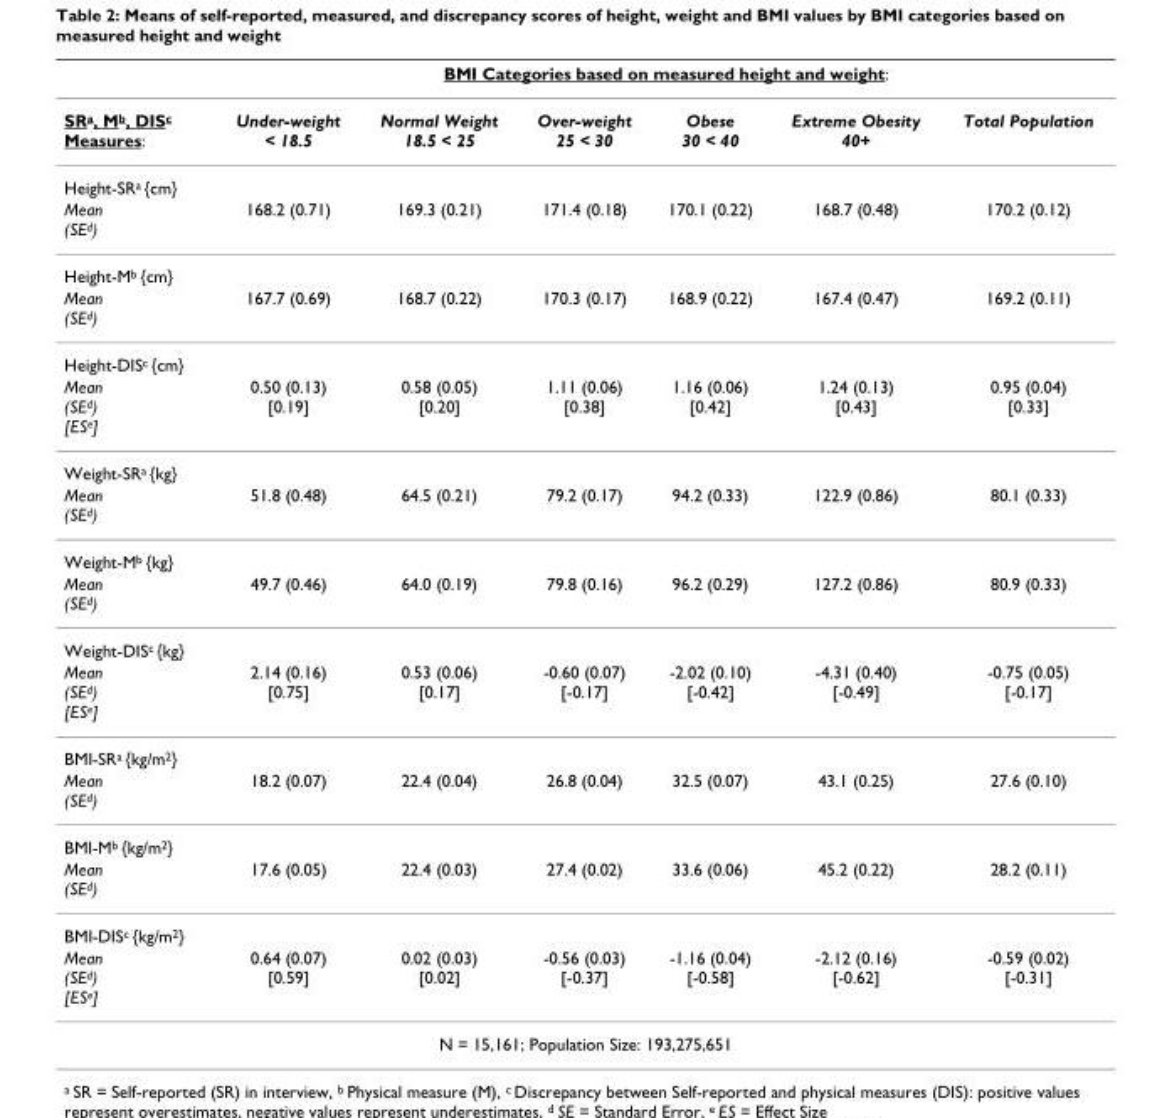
<table><thead><tr><td rowspan="2">SR<sup>a</sup>, M<sup>b</sup>, DIS<sup>c</sup> Measures:</td><td colspan="6">BMI Categories based on measured height and weight:</td></tr><tr><td>Under-weight &lt; 18.5</td><td>Normal Weight 18.5 &lt; 25</td><td>Over-weight 25 &lt; 30</td><td>Obese 30 &lt; 40</td><td>Extreme Obesity 40+</td><td>Total Population</td></tr></thead><tbody><tr><td colspan="7">Height-SR<sup>a</sup> {cm}</td></tr><tr><td>Mean (SE<sup>d</sup>)</td><td>168.2 (0.71)</td><td>169.3 (0.21)</td><td>171.4 (0.18)</td><td>170.1 (0.22)</td><td>168.7 (0.48)</td><td>170.2 (0.12)</td></tr><tr><td colspan="7">Height-M<sup>b</sup> {cm}</td></tr><tr><td>Mean (SE<sup>d</sup>)</td><td>167.7 (0.69)</td><td>168.7 (0.22)</td><td>170.3 (0.17)</td><td>168.9 (0.22)</td><td>167.4 (0.47)</td><td>169.2 (0.11)</td></tr><tr><td colspan="7">Height-DIS<sup>c</sup> {cm}</td></tr><tr><td>Mean (SE<sup>d</sup>) [ES<sup>e</sup>]</td><td>0.50 (0.13) [0.19]</td><td>0.58 (0.05) [0.20]</td><td>1.11 (0.06) [0.38]</td><td>1.16 (0.06) [0.42]</td><td>1.24 (0.13) [0.43]</td><td>0.95 (0.04) [0.33]</td></tr><tr><td colspan="7">Weight-SR<sup>a</sup> {kg}</td></tr><tr><td>Mean (SE<sup>d</sup>)</td><td>51.8 (0.48)</td><td>64.5 (0.21)</td><td>79.2 (0.17)</td><td>94.2 (0.33)</td><td>122.9 (0.86)</td><td>80.1 (0.33)</td></tr><tr><td colspan="7">Weight-M<sup>b</sup> {kg}</td></tr><tr><td>Mean (SE<sup>d</sup>)</td><td>49.7 (0.46)</td><td>64.0 (0.19)</td><td>79.8 (0.16)</td><td>96.2 (0.29)</td><td>127.2 (0.86)</td><td>80.9 (0.33)</td></tr><tr><td colspan="7">Weight-DIS<sup>c</sup> {kg}</td></tr><tr><td>Mean (SE<sup>d</sup>) [ES<sup>e</sup>]</td><td>2.14 (0.16) [0.75]</td><td>0.53 (0.06) [0.17]</td><td>-0.60 (0.07) [-0.17]</td><td>-2.02 (0.10) [-0.42]</td><td>-4.31 (0.40) [-0.49]</td><td>-0.75 (0.05) [-0.17]</td></tr><tr><td colspan="7">BMI-SR<sup>a</sup> {kg/m<sup>2</sup>}</td></tr><tr><td>Mean (SE<sup>d</sup>)</td><td>18.2 (0.07)</td><td>22.4 (0.04)</td><td>26.8 (0.04)</td><td>32.5 (0.07)</td><td>43.1 (0.25)</td><td>27.6 (0.10)</td></tr><tr><td colspan="7">BMI-M<sup>b</sup> {kg/m<sup>2</sup>}</td></tr><tr><td>Mean (SE<sup>d</sup>)</td><td>17.6 (0.05)</td><td>22.4 (0.03)</td><td>27.4 (0.02)</td><td>33.6 (0.06)</td><td>45.2 (0.22)</td><td>28.2 (0.11)</td></tr><tr><td colspan="7">BMI-DIS<sup>c</sup> {kg/m<sup>2</sup>}</td></tr><tr><td>Mean (SE<sup>d</sup>) [ES<sup>e</sup>]</td><td>0.64 (0.07) [0.59]</td><td>0.02 (0.03) [0.02]</td><td>-0.56 (0.03) [-0.37]</td><td>-1.16 (0.04) [-0.58]</td><td>-2.12 (0.16) [-0.62]</td><td>-0.59 (0.02) [-0.31]</td></tr><tr><td colspan="7">N = 15,161; Population Size: 193,275,651</td></tr></tbody></table>